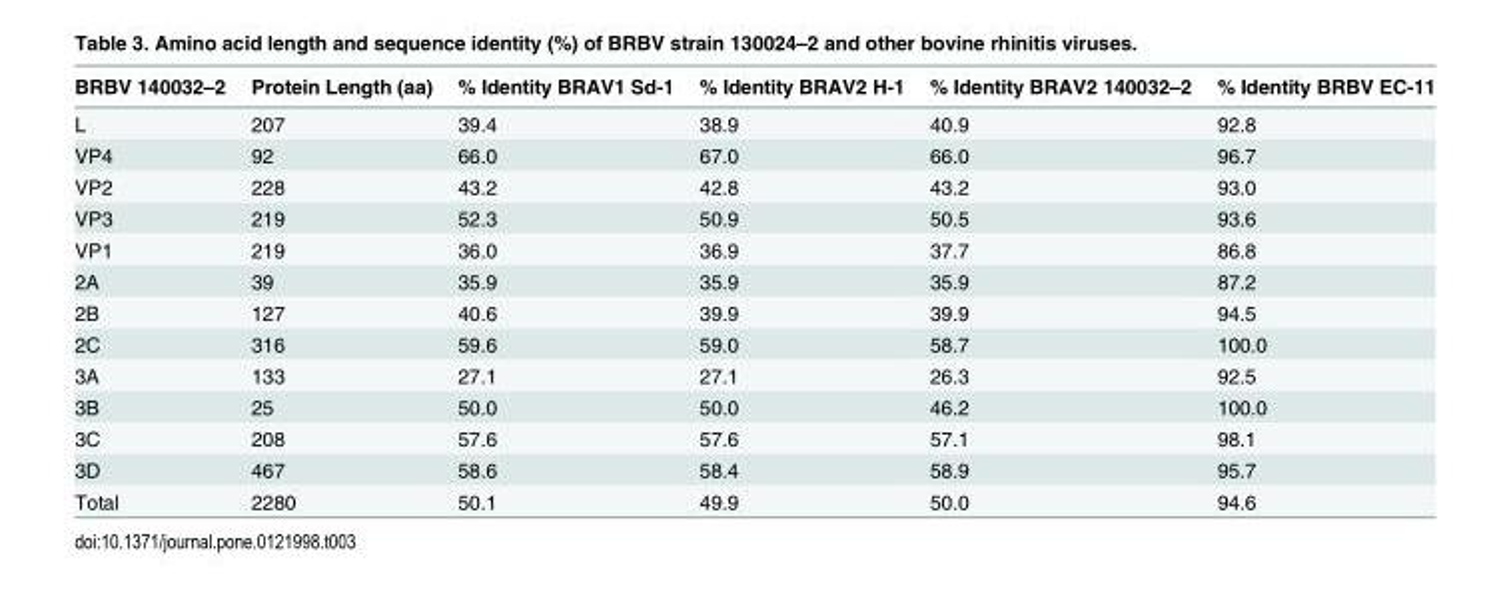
<table><thead><tr><td>BRBV 140032–2</td><td>Protein Length (aa)</td><td>% Identity BRAV1 Sd-1</td><td>% Identity BRAV2 H-1</td><td>% Identity BRAV2 140032–2</td><td>% Identity BRBV EC-11</td></tr></thead><tbody><tr><td>L</td><td>207</td><td>39.4</td><td>38.9</td><td>40.9</td><td>92.8</td></tr><tr><td>VP4</td><td>92</td><td>66.0</td><td>67.0</td><td>66.0</td><td>96.7</td></tr><tr><td>VP2</td><td>228</td><td>43.2</td><td>42.8</td><td>43.2</td><td>93.0</td></tr><tr><td>VP3</td><td>219</td><td>52.3</td><td>50.9</td><td>50.5</td><td>93.6</td></tr><tr><td>VP1</td><td>219</td><td>36.0</td><td>36.9</td><td>37.7</td><td>86.8</td></tr><tr><td>2A</td><td>39</td><td>35.9</td><td>35.9</td><td>35.9</td><td>87.2</td></tr><tr><td>2B</td><td>127</td><td>40.6</td><td>39.9</td><td>39.9</td><td>94.5</td></tr><tr><td>2C</td><td>316</td><td>59.6</td><td>59.0</td><td>58.7</td><td>100.0</td></tr><tr><td>3A</td><td>133</td><td>27.1</td><td>27.1</td><td>26.3</td><td>92.5</td></tr><tr><td>3B</td><td>25</td><td>50.0</td><td>50.0</td><td>46.2</td><td>100.0</td></tr><tr><td>3C</td><td>208</td><td>57.6</td><td>57.6</td><td>57.1</td><td>98.1</td></tr><tr><td>3D</td><td>467</td><td>58.6</td><td>58.4</td><td>58.9</td><td>95.7</td></tr><tr><td>Total</td><td>2280</td><td>50.1</td><td>49.9</td><td>50.0</td><td>94.6</td></tr></tbody></table>